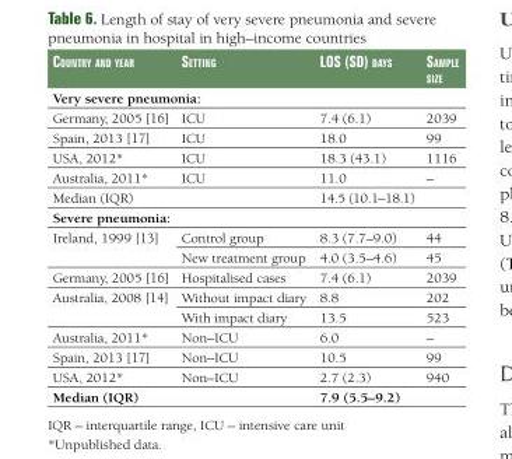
<table><thead><tr><td>COuntry and year</td><td>Setting</td><td>lOS (Sd) dayS</td><td>Sample Size</td></tr></thead><tbody><tr><td colspan="4">Very severe pneumonia:</td></tr><tr><td>Germany, 2005 [16]</td><td>ICU</td><td>7.4 (6.1)</td><td>2039</td></tr><tr><td>Spain, 2013 [17]</td><td>ICU</td><td>18.0</td><td>99</td></tr><tr><td>USA, 2012*</td><td>ICU</td><td>18.3 (43.1)</td><td>1116</td></tr><tr><td>Australia, 2011*</td><td>ICU</td><td>11.0</td><td>–</td></tr><tr><td>Median (IQR)</td><td></td><td>14.5 (10.1–18.1)</td><td></td></tr><tr><td colspan="4">Severe pneumonia:</td></tr><tr><td rowspan="2">Ireland, 1999 [13]</td><td>Control group</td><td>8.3 (7.7–9.0)</td><td>44</td></tr><tr><td>New treatment group</td><td>4.0 (3.5–4.6)</td><td>45</td></tr><tr><td>Germany, 2005 [16]</td><td>Hospitalised cases</td><td>7.4 (6.1)</td><td>2039</td></tr><tr><td rowspan="2">Australia, 2008 [14]</td><td>Without impact diary</td><td>8.8</td><td>202</td></tr><tr><td>With impact diary</td><td>13.5</td><td>523</td></tr><tr><td>Australia, 2011*</td><td>Non–ICU</td><td>6.0</td><td>–</td></tr><tr><td>Spain, 2013 [17]</td><td>Non–ICU</td><td>10.5</td><td>99</td></tr><tr><td>USA, 2012*</td><td>Non–ICU</td><td>2.7 (2.3)</td><td>940</td></tr><tr><td>Median (IQR)</td><td></td><td>7.9 (5.5–9.2)</td><td></td></tr></tbody></table>